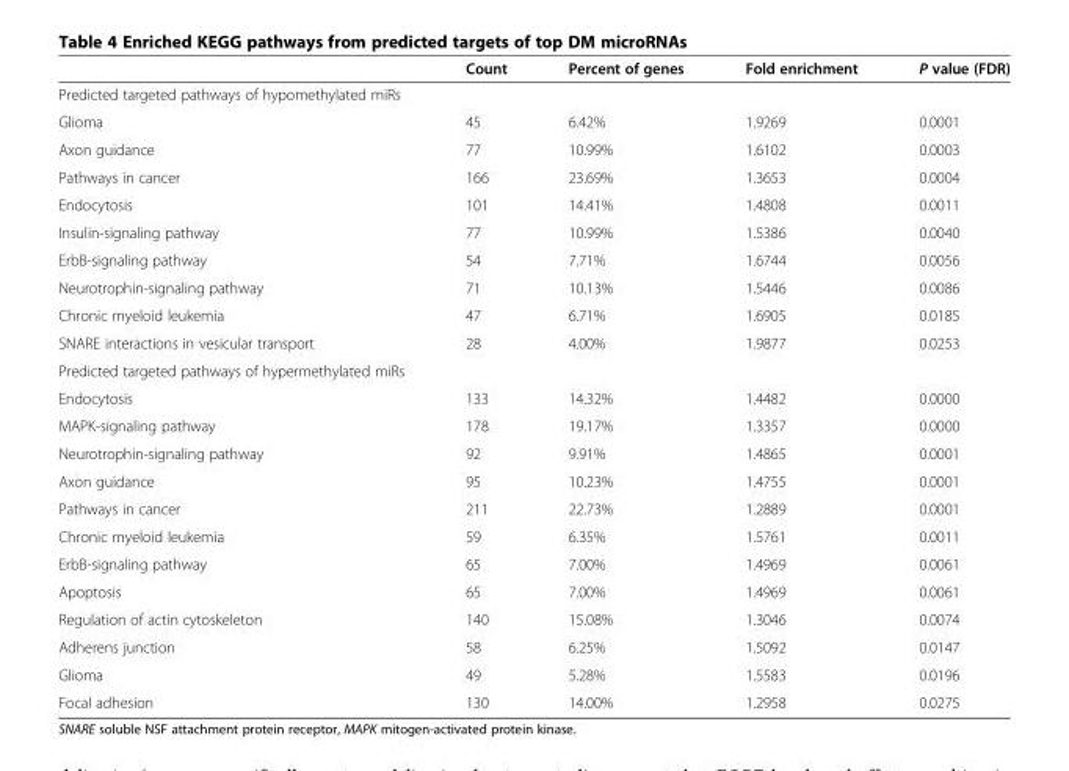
<table><thead><tr><td></td><td>Count</td><td>Percent of genes</td><td>Fold enrichment</td><td>P value (FDR)</td></tr></thead><tbody><tr><td colspan="5">Predicted targeted pathways of hypomethylated miRs</td></tr><tr><td>Glioma</td><td>45</td><td>6.42%</td><td>1.9269</td><td>0.0001</td></tr><tr><td>Axon guidance</td><td>77</td><td>10.99%</td><td>1.6102</td><td>0.0003</td></tr><tr><td>Pathways in cancer</td><td>166</td><td>23.69%</td><td>1.3653</td><td>0.0004</td></tr><tr><td>Endocytosis</td><td>101</td><td>14.41%</td><td>1.4808</td><td>0.0011</td></tr><tr><td>Insulin-signaling pathway</td><td>77</td><td>10.99%</td><td>1.5386</td><td>0.0040</td></tr><tr><td>ErbB-signaling pathway</td><td>54</td><td>7.71%</td><td>1.6744</td><td>0.0056</td></tr><tr><td>Neurotrophin-signaling pathway</td><td>71</td><td>10.13%</td><td>1.5446</td><td>0.0086</td></tr><tr><td>Chronic myeloid leukemia</td><td>47</td><td>6.71%</td><td>1.6905</td><td>0.0185</td></tr><tr><td>SNARE interactions in vesicular transport</td><td>28</td><td>4.00%</td><td>1.9877</td><td>0.0253</td></tr><tr><td colspan="5">Predicted targeted pathways of hypermethylated miRs</td></tr><tr><td>Endocytosis</td><td>133</td><td>14.32%</td><td>1.4482</td><td>0.0000</td></tr><tr><td>MAPK-signaling pathway</td><td>178</td><td>19.17%</td><td>1.3357</td><td>0.0000</td></tr><tr><td>Neurotrophin-signaling pathway</td><td>92</td><td>9.91%</td><td>1.4865</td><td>0.0001</td></tr><tr><td>Axon guidance</td><td>95</td><td>10.23%</td><td>1.4755</td><td>0.0001</td></tr><tr><td>Pathways in cancer</td><td>211</td><td>22.73%</td><td>1.2889</td><td>0.0001</td></tr><tr><td>Chronic myeloid leukemia</td><td>59</td><td>6.35%</td><td>1.5761</td><td>0.0011</td></tr><tr><td>ErbB-signaling pathway</td><td>65</td><td>7.00%</td><td>1.4969</td><td>0.0061</td></tr><tr><td>Apoptosis</td><td>65</td><td>7.00%</td><td>1.4969</td><td>0.0061</td></tr><tr><td>Regulation of actin cytoskeleton</td><td>140</td><td>15.08%</td><td>1.3046</td><td>0.0074</td></tr><tr><td>Adherens junction</td><td>58</td><td>6.25%</td><td>1.5092</td><td>0.0147</td></tr><tr><td>Glioma</td><td>49</td><td>5.28%</td><td>1.5583</td><td>0.0196</td></tr><tr><td>Focal adhesion</td><td>130</td><td>14.00%</td><td>1.2958</td><td>0.0275</td></tr></tbody></table>